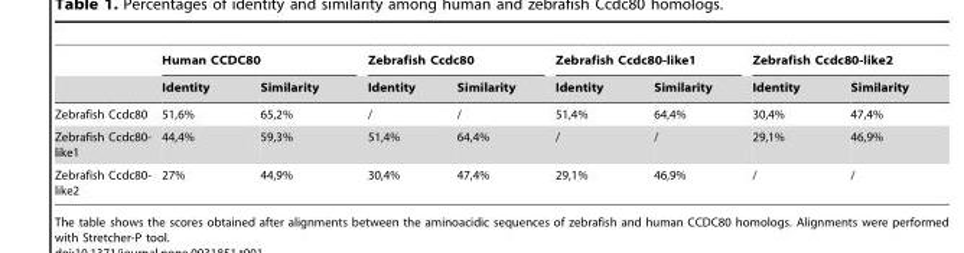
<table><thead><tr><td rowspan="2"></td><td colspan="2">Human CCDC80</td><td colspan="2">Zebrafish Ccdc80</td><td colspan="2">Zebrafish Ccdc80-like1</td><td colspan="2">Zebrafish Ccdc80-like2</td></tr><tr><td>Identity</td><td>Similarity</td><td>Identity</td><td>Similarity</td><td>Identity</td><td>Similarity</td><td>Identity</td><td>Similarity</td></tr></thead><tbody><tr><td>Zebrafish Ccdc80</td><td>51,6%</td><td>65,2%</td><td>/</td><td>/</td><td>51,4%</td><td>64,4%</td><td>30,4%</td><td>47,4%</td></tr><tr><td>Zebrafish Ccdc80- like1</td><td>44,4%</td><td>59,3%</td><td>51,4%</td><td>64,4%</td><td>/</td><td>/</td><td>29,1%</td><td>46,9%</td></tr><tr><td>Zebrafish Ccdc80- like2</td><td>27%</td><td>44,9%</td><td>30,4%</td><td>47,4%</td><td>29,1%</td><td>46,9%</td><td>/</td><td>/</td></tr></tbody></table>